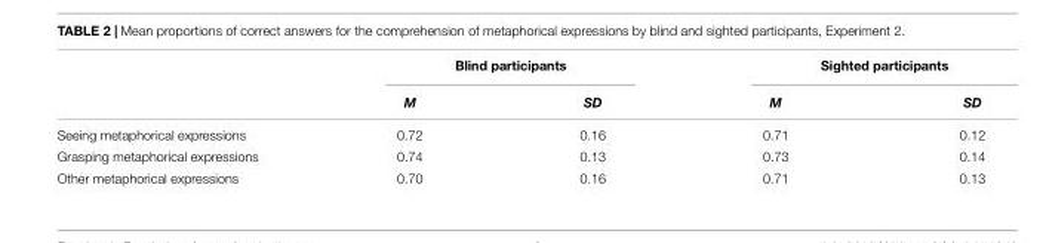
<table><thead><tr><td rowspan="2"></td><td colspan="2">Blind participants</td><td colspan="2">Sighted participants</td></tr><tr><td>M</td><td>SD</td><td>M</td><td>SD</td></tr></thead><tbody><tr><td>Seeing metaphorical expressions</td><td>0.72</td><td>0.16</td><td>0.71</td><td>0.12</td></tr><tr><td>Grasping metaphorical expressions</td><td>0.74</td><td>0.13</td><td>0.73</td><td>0.14</td></tr><tr><td>Other metaphorical expressions</td><td>0.70</td><td>0.16</td><td>0.71</td><td>0.13</td></tr></tbody></table>